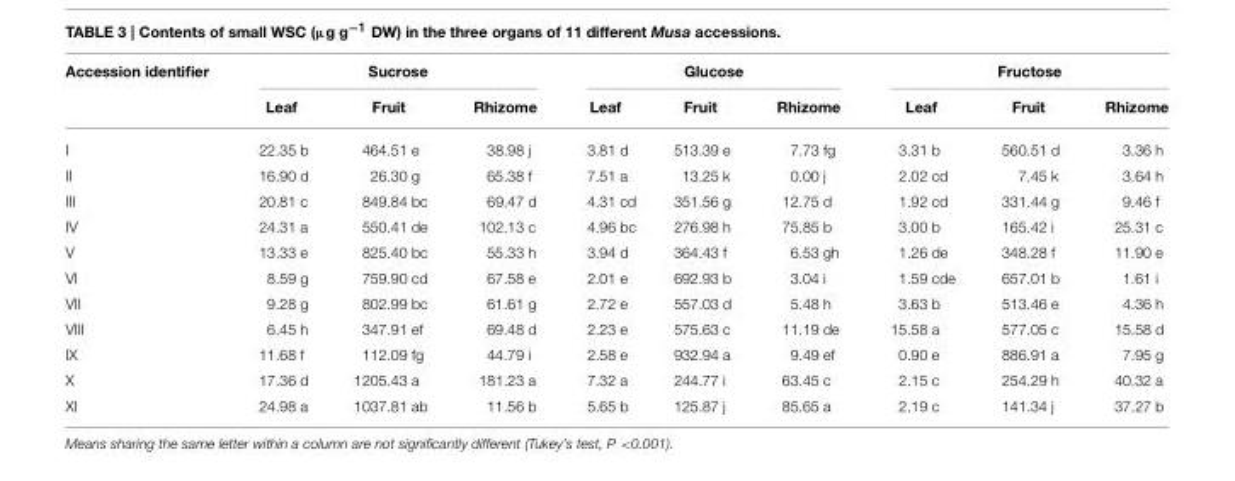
<table><thead><tr><td rowspan="2">Accession identifier</td><td colspan="3">Sucrose</td><td colspan="3">Glucose</td><td colspan="3">Fructose</td></tr><tr><td>Leaf</td><td>Fruit</td><td>Rhizome</td><td>Leaf</td><td>Fruit</td><td>Rhizome</td><td>Leaf</td><td>Fruit</td><td>Rhizome</td></tr></thead><tbody><tr><td>I</td><td>22.35 b</td><td>464.51 e</td><td>38.98 j</td><td>3.81 d</td><td>513.39 e</td><td>7.73 fg</td><td>3.31 b</td><td>560.51 d</td><td>3.36 h</td></tr><tr><td>II</td><td>16.90 d</td><td>26.30 g</td><td>65.38 f</td><td>7.51 a</td><td>13.25 k</td><td>0.00 j</td><td>2.02 cd</td><td>7.45 k</td><td>3.64 h</td></tr><tr><td>III</td><td>20.81 c</td><td>849.84 bc</td><td>69.47 d</td><td>4.31 cd</td><td>351.56 g</td><td>12.75 d</td><td>1.92 cd</td><td>331.44 g</td><td>9.46 f</td></tr><tr><td>IV</td><td>24.31 a</td><td>550.41 de</td><td>102.13 c</td><td>4.96 bc</td><td>276.98 h</td><td>75.85 b</td><td>3.00 b</td><td>165.42 i</td><td>25.31 c</td></tr><tr><td>V</td><td>13.33 e</td><td>825.40 bc</td><td>55.33 h</td><td>3.94 d</td><td>364.43 f</td><td>6.53 gh</td><td>1.26 de</td><td>348.28 f</td><td>11.90 e</td></tr><tr><td>VI</td><td>8.59 g</td><td>759.90 cd</td><td>67.58 e</td><td>2.01 e</td><td>692.93 b</td><td>3.04 i</td><td>1.59 cde</td><td>657.01 b</td><td>1.61 i</td></tr><tr><td>VII</td><td>9.28 g</td><td>802.99 bc</td><td>61.61 g</td><td>2.72 e</td><td>557.03 d</td><td>5.48 h</td><td>3.63 b</td><td>513.46 e</td><td>4.36 h</td></tr><tr><td>VIII</td><td>6.45 h</td><td>347.91 ef</td><td>69.48 d</td><td>2.23 e</td><td>575.63 c</td><td>11.19 de</td><td>15.58 a</td><td>577.05 c</td><td>15.58 d</td></tr><tr><td>IX</td><td>11.68 f</td><td>112.09 fg</td><td>44.79 i</td><td>2.58 e</td><td>932.94 a</td><td>9.49 ef</td><td>0.90 e</td><td>886.91 a</td><td>7.95 g</td></tr><tr><td>X</td><td>17.36 d</td><td>1205.43 a</td><td>181.23 a</td><td>7.32 a</td><td>244.77 i</td><td>63.45 c</td><td>2.15 c</td><td>254.29 h</td><td>40.32 a</td></tr><tr><td>XI</td><td>24.98 a</td><td>1037.81 ab</td><td>11.56 b</td><td>5.65 b</td><td>125.87 j</td><td>85.65 a</td><td>2.19 c</td><td>141.34 j</td><td>37.27 b</td></tr></tbody></table>